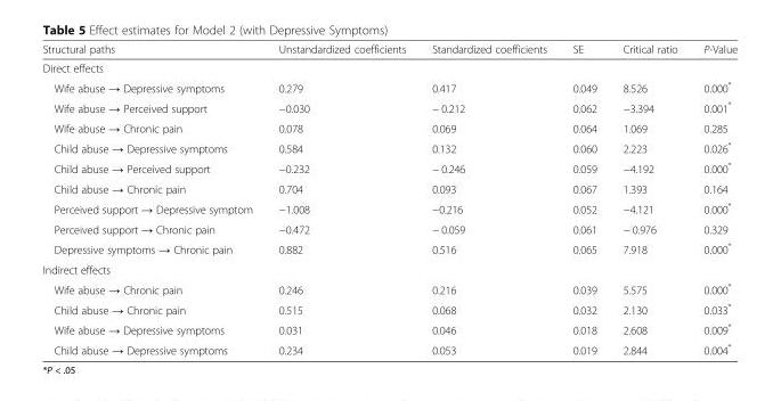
<table><thead><tr><td>Structural paths</td><td>Unstandardized coefficients</td><td>Standardized coefficients</td><td>SE</td><td>Critical ratio</td><td>P-Value</td></tr></thead><tbody><tr><td colspan="6">Direct effects</td></tr><tr><td>Wife abuse → Depressive symptoms</td><td>0.279</td><td>0.417</td><td>0.049</td><td>8.526</td><td>0.000*</td></tr><tr><td>Wife abuse → Perceived support</td><td>−0.030</td><td>− 0.212</td><td>0.062</td><td>−3.394</td><td>0.001*</td></tr><tr><td>Wife abuse → Chronic pain</td><td>0.078</td><td>0.069</td><td>0.064</td><td>1.069</td><td>0.285</td></tr><tr><td>Child abuse → Depressive symptoms</td><td>0.584</td><td>0.132</td><td>0.060</td><td>2.223</td><td>0.026*</td></tr><tr><td>Child abuse → Perceived support</td><td>−0.232</td><td>− 0.246</td><td>0.059</td><td>−4.192</td><td>0.000*</td></tr><tr><td>Child abuse → Chronic pain</td><td>0.704</td><td>0.093</td><td>0.067</td><td>1.393</td><td>0.164</td></tr><tr><td>Perceived support → Depressive symptom</td><td>−1.008</td><td>−0.216</td><td>0.052</td><td>−4.121</td><td>0.000*</td></tr><tr><td>Perceived support → Chronic pain</td><td>−0.472</td><td>− 0.059</td><td>0.061</td><td>− 0.976</td><td>0.329</td></tr><tr><td>Depressive symptoms → Chronic pain</td><td>0.882</td><td>0.516</td><td>0.065</td><td>7.918</td><td>0.000*</td></tr><tr><td colspan="6">Indirect effects</td></tr><tr><td>Wife abuse → Chronic pain</td><td>0.246</td><td>0.216</td><td>0.039</td><td>5.575</td><td>0.000*</td></tr><tr><td>Child abuse → Chronic pain</td><td>0.515</td><td>0.068</td><td>0.032</td><td>2.130</td><td>0.033*</td></tr><tr><td>Wife abuse → Depressive symptoms</td><td>0.031</td><td>0.046</td><td>0.018</td><td>2.608</td><td>0.009*</td></tr><tr><td>Child abuse → Depressive symptoms</td><td>0.234</td><td>0.053</td><td>0.019</td><td>2.844</td><td>0.004*</td></tr></tbody></table>